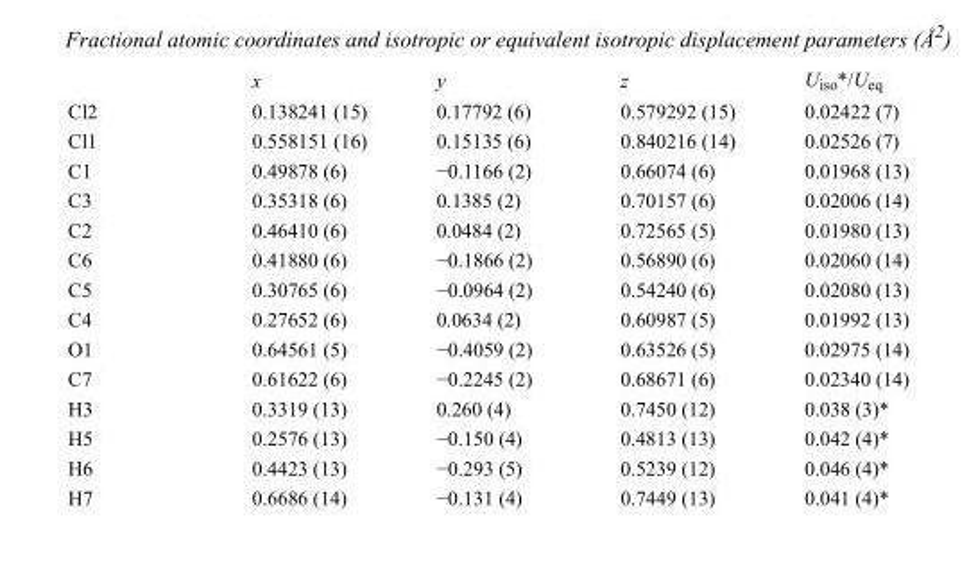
<table><thead><tr><td></td><td>x</td><td>y</td><td>z</td><td>U<sub>iso</sub>*/U<sub>eq</sub></td></tr></thead><tbody><tr><td>Cl2</td><td>0.138241 (15)</td><td>0.17792 (6)</td><td>0.579292 (15)</td><td>0.02422 (7)</td></tr><tr><td>Cl1</td><td>0.558151 (16)</td><td>0.15135 (6)</td><td>0.840216 (14)</td><td>0.02526 (7)</td></tr><tr><td>C1</td><td>0.49878 (6)</td><td>−0.1166 (2)</td><td>0.66074 (6)</td><td>0.01968 (13)</td></tr><tr><td>C3</td><td>0.35318 (6)</td><td>0.1385 (2)</td><td>0.70157 (6)</td><td>0.02006 (14)</td></tr><tr><td>C2</td><td>0.46410 (6)</td><td>0.0484 (2)</td><td>0.72565 (5)</td><td>0.01980 (13)</td></tr><tr><td>C6</td><td>0.41880 (6)</td><td>−0.1866 (2)</td><td>0.56890 (6)</td><td>0.02060 (14)</td></tr><tr><td>C5</td><td>0.30765 (6)</td><td>−0.0964 (2)</td><td>0.54240 (6)</td><td>0.02080 (13)</td></tr><tr><td>C4</td><td>0.27652 (6)</td><td>0.0634 (2)</td><td>0.60987 (5)</td><td>0.01992 (13)</td></tr><tr><td>O1</td><td>0.64561 (5)</td><td>−0.4059 (2)</td><td>0.63526 (5)</td><td>0.02975 (14)</td></tr><tr><td>C7</td><td>0.61622 (6)</td><td>−0.2245 (2)</td><td>0.68671 (6)</td><td>0.02340 (14)</td></tr><tr><td>H3</td><td>0.3319 (13)</td><td>0.260 (4)</td><td>0.7450 (12)</td><td>0.038 (3)*</td></tr><tr><td>H5</td><td>0.2576 (13)</td><td>−0.150 (4)</td><td>0.4813 (13)</td><td>0.042 (4)*</td></tr><tr><td>H6</td><td>0.4423 (13)</td><td>−0.293 (5)</td><td>0.5239 (12)</td><td>0.046 (4)*</td></tr><tr><td>H7</td><td>0.6686 (14)</td><td>−0.131 (4)</td><td>0.7449 (13)</td><td>0.041 (4)*</td></tr></tbody></table>